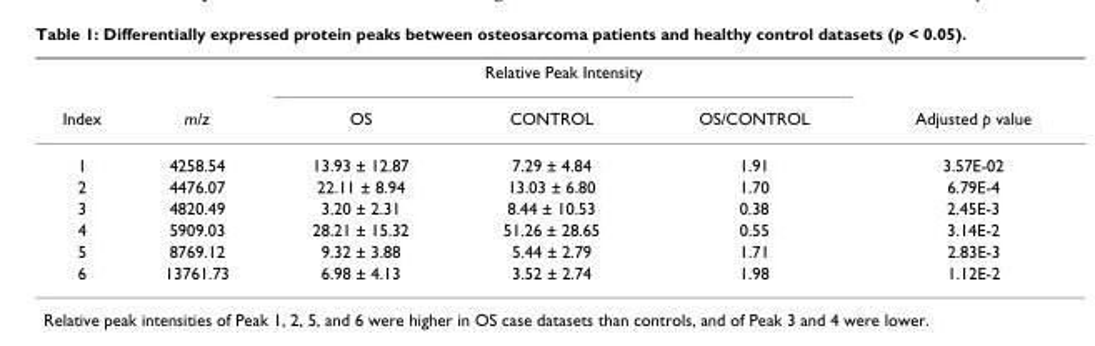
<table><thead><tr><td rowspan="2">Index</td><td rowspan="2">m/z</td><td colspan="3">Relative Peak Intensity</td><td rowspan="2">Adjusted p value</td></tr><tr><td>OS</td><td>CONTROL</td><td>OS/CONTROL</td></tr></thead><tbody><tr><td>1</td><td>4258.54</td><td>13.93 ± 12.87</td><td>7.29 ± 4.84</td><td>1.91</td><td>3.57E-02</td></tr><tr><td>2</td><td>4476.07</td><td>22.11 ± 8.94</td><td>13.03 ± 6.80</td><td>1.70</td><td>6.79E-4</td></tr><tr><td>3</td><td>4820.49</td><td>3.20 ± 2.31</td><td>8.44 ± 10.53</td><td>0.38</td><td>2.45E-3</td></tr><tr><td>4</td><td>5909.03</td><td>28.21 ± 15.32</td><td>51.26 ± 28.65</td><td>0.55</td><td>3.14E-2</td></tr><tr><td>5</td><td>8769.12</td><td>9.32 ± 3.88</td><td>5.44 ± 2.79</td><td>1.71</td><td>2.83E-3</td></tr><tr><td>6</td><td>13761.73</td><td>6.98 ± 4.13</td><td>3.52 ± 2.74</td><td>1.98</td><td>1.12E-2</td></tr></tbody></table>